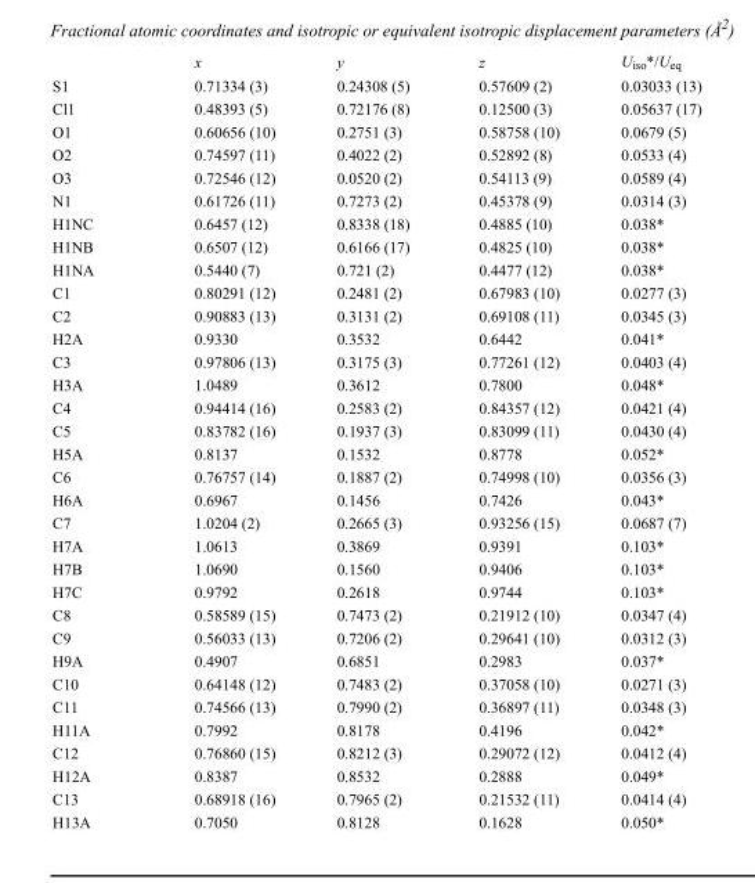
<table><thead><tr><td></td><td>x</td><td>y</td><td>z</td><td>U<sub>iso</sub>*/U<sub>eq</sub></td></tr></thead><tbody><tr><td>S1</td><td>0.71334 (3)</td><td>0.24308 (5)</td><td>0.57609 (2)</td><td>0.03033 (13)</td></tr><tr><td>Cl1</td><td>0.48393 (5)</td><td>0.72176 (8)</td><td>0.12500 (3)</td><td>0.05637 (17)</td></tr><tr><td>O1</td><td>0.60656 (10)</td><td>0.2751 (3)</td><td>0.58758 (10)</td><td>0.0679 (5)</td></tr><tr><td>O2</td><td>0.74597 (11)</td><td>0.4022 (2)</td><td>0.52892 (8)</td><td>0.0533 (4)</td></tr><tr><td>O3</td><td>0.72546 (12)</td><td>0.0520 (2)</td><td>0.54113 (9)</td><td>0.0589 (4)</td></tr><tr><td>N1</td><td>0.61726 (11)</td><td>0.7273 (2)</td><td>0.45378 (9)</td><td>0.0314 (3)</td></tr><tr><td>H1NC</td><td>0.6457 (12)</td><td>0.8338 (18)</td><td>0.4885 (10)</td><td>0.038*</td></tr><tr><td>H1NB</td><td>0.6507 (12)</td><td>0.6166 (17)</td><td>0.4825 (10)</td><td>0.038*</td></tr><tr><td>H1NA</td><td>0.5440 (7)</td><td>0.721 (2)</td><td>0.4477 (12)</td><td>0.038*</td></tr><tr><td>C1</td><td>0.80291 (12)</td><td>0.2481 (2)</td><td>0.67983 (10)</td><td>0.0277 (3)</td></tr><tr><td>C2</td><td>0.90883 (13)</td><td>0.3131 (2)</td><td>0.69108 (11)</td><td>0.0345 (3)</td></tr><tr><td>H2A</td><td>0.9330</td><td>0.3532</td><td>0.6442</td><td>0.041*</td></tr><tr><td>C3</td><td>0.97806 (13)</td><td>0.3175 (3)</td><td>0.77261 (12)</td><td>0.0403 (4)</td></tr><tr><td>H3A</td><td>1.0489</td><td>0.3612</td><td>0.7800</td><td>0.048*</td></tr><tr><td>C4</td><td>0.94414 (16)</td><td>0.2583 (2)</td><td>0.84357 (12)</td><td>0.0421 (4)</td></tr><tr><td>C5</td><td>0.83782 (16)</td><td>0.1937 (3)</td><td>0.83099 (11)</td><td>0.0430 (4)</td></tr><tr><td>H5A</td><td>0.8137</td><td>0.1532</td><td>0.8778</td><td>0.052*</td></tr><tr><td>C6</td><td>0.76757 (14)</td><td>0.1887 (2)</td><td>0.74998 (10)</td><td>0.0356 (3)</td></tr><tr><td>H6A</td><td>0.6967</td><td>0.1456</td><td>0.7426</td><td>0.043*</td></tr><tr><td>C7</td><td>1.0204 (2)</td><td>0.2665 (3)</td><td>0.93256 (15)</td><td>0.0687 (7)</td></tr><tr><td>H7A</td><td>1.0613</td><td>0.3869</td><td>0.9391</td><td>0.103*</td></tr><tr><td>H7B</td><td>1.0690</td><td>0.1560</td><td>0.9406</td><td>0.103*</td></tr><tr><td>H7C</td><td>0.9792</td><td>0.2618</td><td>0.9744</td><td>0.103*</td></tr><tr><td>C8</td><td>0.58589 (15)</td><td>0.7473 (2)</td><td>0.21912 (10)</td><td>0.0347 (4)</td></tr><tr><td>C9</td><td>0.56033 (13)</td><td>0.7206 (2)</td><td>0.29641 (10)</td><td>0.0312 (3)</td></tr><tr><td>H9A</td><td>0.4907</td><td>0.6851</td><td>0.2983</td><td>0.037*</td></tr><tr><td>C10</td><td>0.64148 (12)</td><td>0.7483 (2)</td><td>0.37058 (10)</td><td>0.0271 (3)</td></tr><tr><td>C11</td><td>0.74566 (13)</td><td>0.7990 (2)</td><td>0.36897 (11)</td><td>0.0348 (3)</td></tr><tr><td>H11A</td><td>0.7992</td><td>0.8178</td><td>0.4196</td><td>0.042*</td></tr><tr><td>C12</td><td>0.76860 (15)</td><td>0.8212 (3)</td><td>0.29072 (12)</td><td>0.0412 (4)</td></tr><tr><td>H12A</td><td>0.8387</td><td>0.8532</td><td>0.2888</td><td>0.049*</td></tr><tr><td>C13</td><td>0.68918 (16)</td><td>0.7965 (2)</td><td>0.21532 (11)</td><td>0.0414 (4)</td></tr><tr><td>H13A</td><td>0.7050</td><td>0.8128</td><td>0.1628</td><td>0.050*</td></tr></tbody></table>